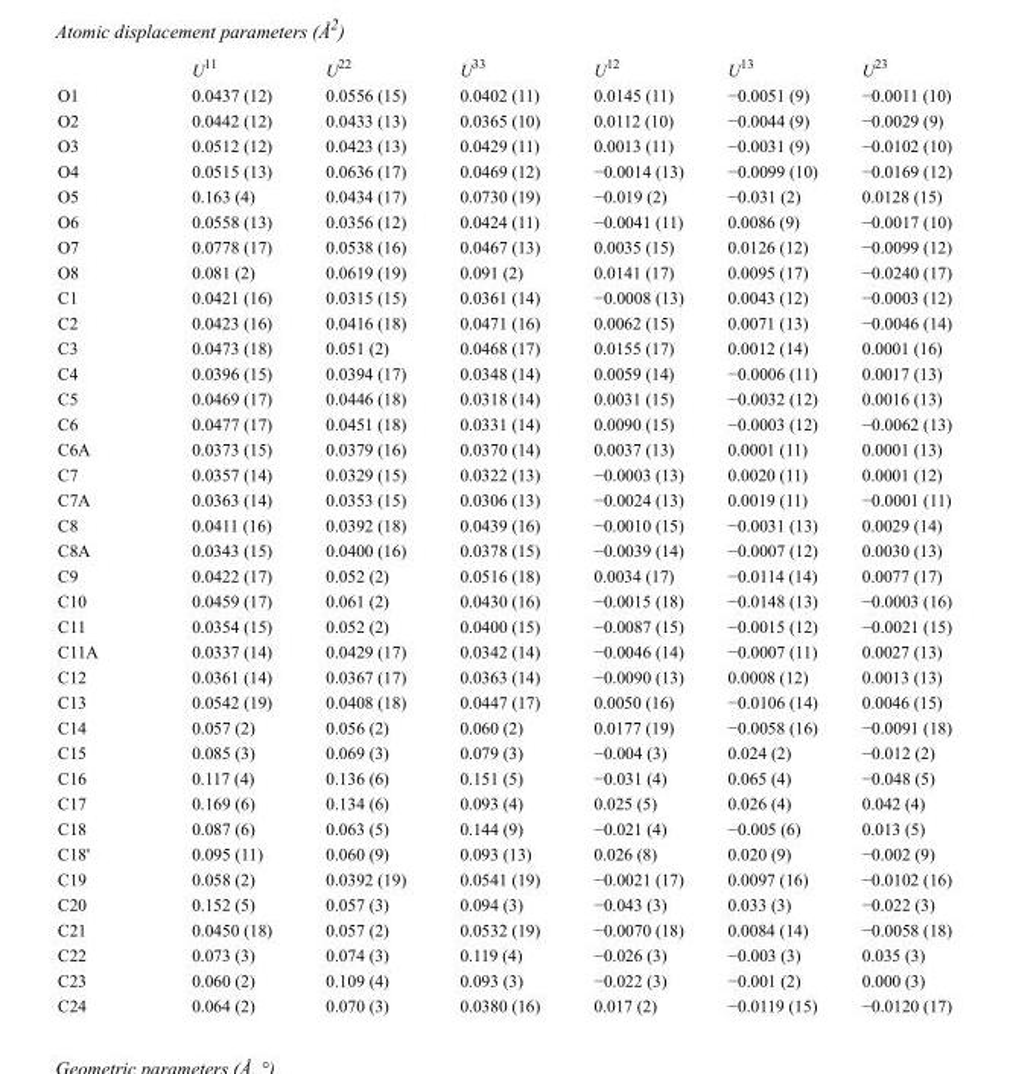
<table><thead><tr><td></td><td>U<sup>11</sup></td><td>U<sup>22</sup></td><td>U<sup>33</sup></td><td>U<sup>12</sup></td><td>U<sup>13</sup></td><td>U<sup>23</sup></td></tr></thead><tbody><tr><td>O1</td><td>0.0437 (12)</td><td>0.0556 (15)</td><td>0.0402 (11)</td><td>0.0145 (11)</td><td>−0.0051 (9)</td><td>−0.0011 (10)</td></tr><tr><td>O2</td><td>0.0442 (12)</td><td>0.0433 (13)</td><td>0.0365 (10)</td><td>0.0112 (10)</td><td>−0.0044 (9)</td><td>−0.0029 (9)</td></tr><tr><td>O3</td><td>0.0512 (12)</td><td>0.0423 (13)</td><td>0.0429 (11)</td><td>0.0013 (11)</td><td>−0.0031 (9)</td><td>−0.0102 (10)</td></tr><tr><td>O4</td><td>0.0515 (13)</td><td>0.0636 (17)</td><td>0.0469 (12)</td><td>−0.0014 (13)</td><td>−0.0099 (10)</td><td>−0.0169 (12)</td></tr><tr><td>O5</td><td>0.163 (4)</td><td>0.0434 (17)</td><td>0.0730 (19)</td><td>−0.019 (2)</td><td>−0.031 (2)</td><td>0.0128 (15)</td></tr><tr><td>O6</td><td>0.0558 (13)</td><td>0.0356 (12)</td><td>0.0424 (11)</td><td>−0.0041 (11)</td><td>0.0086 (9)</td><td>−0.0017 (10)</td></tr><tr><td>O7</td><td>0.0778 (17)</td><td>0.0538 (16)</td><td>0.0467 (13)</td><td>0.0035 (15)</td><td>0.0126 (12)</td><td>−0.0099 (12)</td></tr><tr><td>O8</td><td>0.081 (2)</td><td>0.0619 (19)</td><td>0.091 (2)</td><td>0.0141 (17)</td><td>0.0095 (17)</td><td>−0.0240 (17)</td></tr><tr><td>C1</td><td>0.0421 (16)</td><td>0.0315 (15)</td><td>0.0361 (14)</td><td>−0.0008 (13)</td><td>0.0043 (12)</td><td>−0.0003 (12)</td></tr><tr><td>C2</td><td>0.0423 (16)</td><td>0.0416 (18)</td><td>0.0471 (16)</td><td>0.0062 (15)</td><td>0.0071 (13)</td><td>−0.0046 (14)</td></tr><tr><td>C3</td><td>0.0473 (18)</td><td>0.051 (2)</td><td>0.0468 (17)</td><td>0.0155 (17)</td><td>0.0012 (14)</td><td>0.0001 (16)</td></tr><tr><td>C4</td><td>0.0396 (15)</td><td>0.0394 (17)</td><td>0.0348 (14)</td><td>0.0059 (14)</td><td>−0.0006 (11)</td><td>0.0017 (13)</td></tr><tr><td>C5</td><td>0.0469 (17)</td><td>0.0446 (18)</td><td>0.0318 (14)</td><td>0.0031 (15)</td><td>−0.0032 (12)</td><td>0.0016 (13)</td></tr><tr><td>C6</td><td>0.0477 (17)</td><td>0.0451 (18)</td><td>0.0331 (14)</td><td>0.0090 (15)</td><td>−0.0003 (12)</td><td>−0.0062 (13)</td></tr><tr><td>C6A</td><td>0.0373 (15)</td><td>0.0379 (16)</td><td>0.0370 (14)</td><td>0.0037 (13)</td><td>0.0001 (11)</td><td>0.0001 (13)</td></tr><tr><td>C7</td><td>0.0357 (14)</td><td>0.0329 (15)</td><td>0.0322 (13)</td><td>−0.0003 (13)</td><td>0.0020 (11)</td><td>0.0001 (12)</td></tr><tr><td>C7A</td><td>0.0363 (14)</td><td>0.0353 (15)</td><td>0.0306 (13)</td><td>−0.0024 (13)</td><td>0.0019 (11)</td><td>−0.0001 (11)</td></tr><tr><td>C8</td><td>0.0411 (16)</td><td>0.0392 (18)</td><td>0.0439 (16)</td><td>−0.0010 (15)</td><td>−0.0031 (13)</td><td>0.0029 (14)</td></tr><tr><td>C8A</td><td>0.0343 (15)</td><td>0.0400 (16)</td><td>0.0378 (15)</td><td>−0.0039 (14)</td><td>−0.0007 (12)</td><td>0.0030 (13)</td></tr><tr><td>C9</td><td>0.0422 (17)</td><td>0.052 (2)</td><td>0.0516 (18)</td><td>0.0034 (17)</td><td>−0.0114 (14)</td><td>0.0077 (17)</td></tr><tr><td>C10</td><td>0.0459 (17)</td><td>0.061 (2)</td><td>0.0430 (16)</td><td>−0.0015 (18)</td><td>−0.0148 (13)</td><td>−0.0003 (16)</td></tr><tr><td>C11</td><td>0.0354 (15)</td><td>0.052 (2)</td><td>0.0400 (15)</td><td>−0.0087 (15)</td><td>−0.0015 (12)</td><td>−0.0021 (15)</td></tr><tr><td>C11A</td><td>0.0337 (14)</td><td>0.0429 (17)</td><td>0.0342 (14)</td><td>−0.0046 (14)</td><td>−0.0007 (11)</td><td>0.0027 (13)</td></tr><tr><td>C12</td><td>0.0361 (14)</td><td>0.0367 (17)</td><td>0.0363 (14)</td><td>−0.0090 (13)</td><td>0.0008 (12)</td><td>0.0013 (13)</td></tr><tr><td>C13</td><td>0.0542 (19)</td><td>0.0408 (18)</td><td>0.0447 (17)</td><td>0.0050 (16)</td><td>−0.0106 (14)</td><td>0.0046 (15)</td></tr><tr><td>C14</td><td>0.057 (2)</td><td>0.056 (2)</td><td>0.060 (2)</td><td>0.0177 (19)</td><td>−0.0058 (16)</td><td>−0.0091 (18)</td></tr><tr><td>C15</td><td>0.085 (3)</td><td>0.069 (3)</td><td>0.079 (3)</td><td>−0.004 (3)</td><td>0.024 (2)</td><td>−0.012 (2)</td></tr><tr><td>C16</td><td>0.117 (4)</td><td>0.136 (6)</td><td>0.151 (5)</td><td>−0.031 (4)</td><td>0.065 (4)</td><td>−0.048 (5)</td></tr><tr><td>C17</td><td>0.169 (6)</td><td>0.134 (6)</td><td>0.093 (4)</td><td>0.025 (5)</td><td>0.026 (4)</td><td>0.042 (4)</td></tr><tr><td>C18</td><td>0.087 (6)</td><td>0.063 (5)</td><td>0.144 (9)</td><td>−0.021 (4)</td><td>−0.005 (6)</td><td>0.013 (5)</td></tr><tr><td>C18&#x27;</td><td>0.095 (11)</td><td>0.060 (9)</td><td>0.093 (13)</td><td>0.026 (8)</td><td>0.020 (9)</td><td>−0.002 (9)</td></tr><tr><td>C19</td><td>0.058 (2)</td><td>0.0392 (19)</td><td>0.0541 (19)</td><td>−0.0021 (17)</td><td>0.0097 (16)</td><td>−0.0102 (16)</td></tr><tr><td>C20</td><td>0.152 (5)</td><td>0.057 (3)</td><td>0.094 (3)</td><td>−0.043 (3)</td><td>0.033 (3)</td><td>−0.022 (3)</td></tr><tr><td>C21</td><td>0.0450 (18)</td><td>0.057 (2)</td><td>0.0532 (19)</td><td>−0.0070 (18)</td><td>0.0084 (14)</td><td>−0.0058 (18)</td></tr><tr><td>C22</td><td>0.073 (3)</td><td>0.074 (3)</td><td>0.119 (4)</td><td>−0.026 (3)</td><td>−0.003 (3)</td><td>0.035 (3)</td></tr><tr><td>C23</td><td>0.060 (2)</td><td>0.109 (4)</td><td>0.093 (3)</td><td>−0.022 (3)</td><td>−0.001 (2)</td><td>0.000 (3)</td></tr><tr><td>C24</td><td>0.064 (2)</td><td>0.070 (3)</td><td>0.0380 (16)</td><td>0.017 (2)</td><td>−0.0119 (15)</td><td>−0.0120 (17)</td></tr></tbody></table>